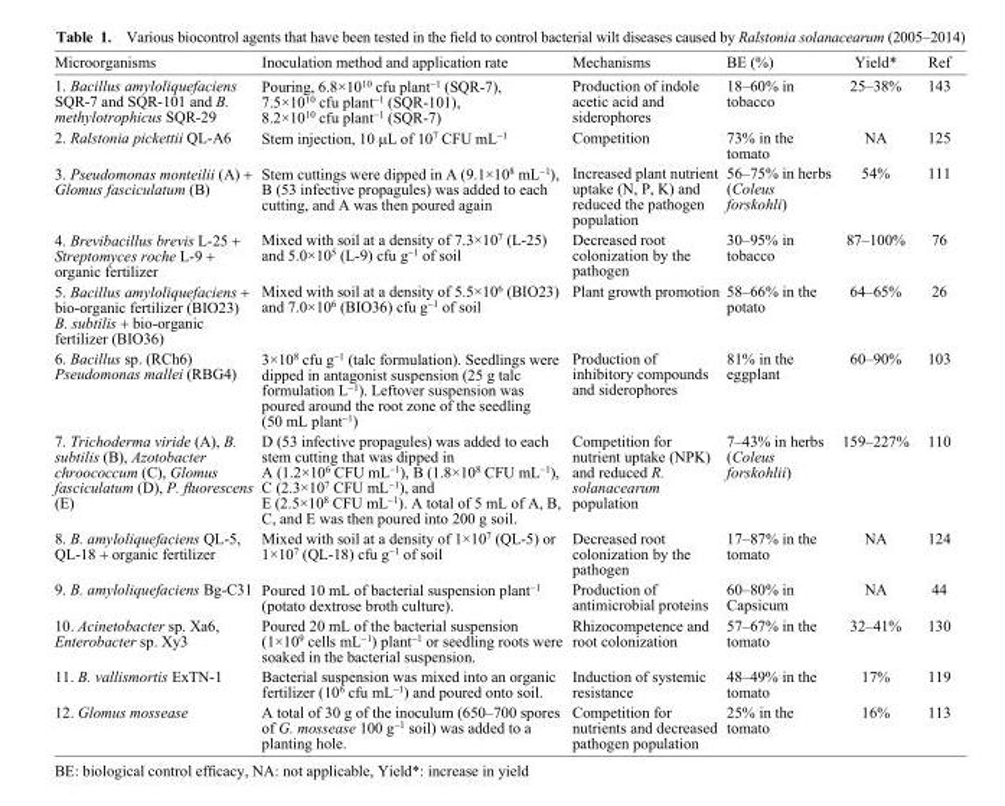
<table><thead><tr><td>Microorganisms</td><td>Inoculation method and application rate</td><td>Mechanisms</td><td>BE (%)</td><td>Yield*</td><td>Ref</td></tr></thead><tbody><tr><td>1. Bacillus amyloliquefaciens SQR-7 and SQR-101 and B. methylotrophicus SQR-29</td><td>Pouring, 6.8×10<sup>10</sup> cfu plant<sup>−1</sup> (SQR-7), 7.5×10<sup>10</sup> cfu plant<sup>−1</sup> (SQR-101), 8.2×10<sup>10</sup> cfu plant<sup>−1</sup> (SQR-7)</td><td>Production of indole acetic acid and siderophores</td><td>18–60% in tobacco</td><td>25–38%</td><td>143</td></tr><tr><td>2. Ralstonia pickettii QL-A6</td><td>Stem injection, 10 µL of 10<sup>7</sup> CFU mL<sup>−1</sup></td><td>Competition</td><td>73% in the tomato</td><td>NA</td><td>125</td></tr><tr><td>3. Pseudomonas monteilii (A) + Glomus fasciculatum (B)</td><td>Stem cuttings were dipped in A (9.1×10<sup>8</sup> mL<sup>−1</sup>), B (53 infective propagules) was added to each cutting, and A was then poured again</td><td>Increased plant nutrient uptake (N, P, K) and reduced the pathogen population</td><td>56–75% in herbs (Coleus forskohli)</td><td>54%</td><td>111</td></tr><tr><td>4. Brevibacillus brevis L-25 + Streptomyces roche L-9 + organic fertilizer</td><td>Mixed with soil at a density of 7.3×10<sup>7</sup> (L-25) and 5.0×10<sup>5</sup> (L-9) cfu g<sup>−1</sup> of soil</td><td>Decreased root colonization by the pathogen</td><td>30–95% in tobacco</td><td>87–100%</td><td>76</td></tr><tr><td>5. Bacillus amyloliquefaciens + bio-organic fertilizer (BIO23) B. subtilis + bio-organic fertilizer (BIO36)</td><td>Mixed with soil at a density of 5.5×10<sup>6</sup> (BIO23) and 7.0×10<sup>6</sup> (BIO36) cfu g<sup>−1</sup> of soil</td><td>Plant growth promotion</td><td>58–66% in the potato</td><td>64–65%</td><td>26</td></tr><tr><td>6. Bacillus sp. (RCh6) Pseudomonas mallei (RBG4)</td><td>3×10<sup>8</sup> cfu g<sup>−1</sup> (talc formulation). Seedlings were dipped in antagonist suspension (25 g talc formulation L<sup>−1</sup>). Leftover suspension was poured around the root zone of the seedling (50 mL plant<sup>−1</sup>)</td><td>Production of inhibitory compounds and siderophores</td><td>81% in the eggplant</td><td>60–90%</td><td>103</td></tr><tr><td>7. Trichoderma viride (A), B. subtilis (B), Azotobacter chroococcum (C), Glomus fasciculatum (D), P. fluorescens (E)</td><td>D (53 infective propagules) was added to each stem cutting that was dipped in A (1.2×10<sup>6</sup> CFU mL<sup>−1</sup>), B (1.8×10<sup>8</sup> CFU mL<sup>−1</sup>), C (2.3×10<sup>7</sup> CFU mL<sup>−1</sup>), and E (2.5×10<sup>8</sup> CFU mL<sup>−1</sup>). A total of 5 mL of A, B, C, and E was then poured into 200 g soil.</td><td>Competition for nutrient uptake (NPK) and reduced R. solanacearum population</td><td>7–43% in herbs (Coleus forskohlii)</td><td>159–227%</td><td>110</td></tr><tr><td>8. B. amyloliquefaciens QL-5, QL-18 + organic fertilizer</td><td>Mixed with soil at a density of 1×10<sup>7</sup> (QL-5) or 1×10<sup>7</sup> (QL-18) cfu g<sup>−1</sup> of soil</td><td>Decreased root colonization by the pathogen</td><td>17–87% in the tomato</td><td>NA</td><td>124</td></tr><tr><td>9. B. amyloliquefaciens Bg-C31</td><td>Poured 10 mL of bacterial suspension plant<sup>−1</sup> (potato dextrose broth culture).</td><td>Production of antimicrobial proteins</td><td>60–80% in Capsicum</td><td>NA</td><td>44</td></tr><tr><td>10. Acinetobacter sp. Xa6, Enterobacter sp. Xy3</td><td>Poured 20 mL of the bacterial suspension (1×10<sup>9</sup> cells mL<sup>−1</sup>) plant<sup>−1</sup> or seedling roots were soaked in the bacterial suspension.</td><td>Rhizocompetence and root colonization</td><td>57–67% in the tomato</td><td>32–41%</td><td>130</td></tr><tr><td>11. B. vallismortis ExTN-1</td><td>Bacterial suspension was mixed into an organic fertilizer (10<sup>6</sup> cfu mL<sup>−1</sup>) and poured onto soil.</td><td>Induction of systemic resistance</td><td>48–49% in the tomato</td><td>17%</td><td>119</td></tr><tr><td>12. Glomus mossease</td><td>A total of 30 g of the inoculum (650–700 spores of G. mossease 100 g<sup>−1</sup> soil) was added to a planting hole.</td><td>Competition for nutrients and decreased pathogen population</td><td>25% in the tomato</td><td>16%</td><td>113</td></tr></tbody></table>